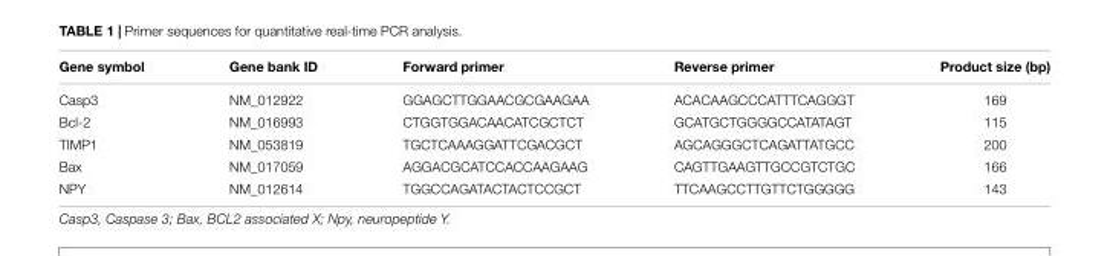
<table><thead><tr><td>Gene symbol</td><td>Gene bank ID</td><td>Forward primer</td><td>Reverse primer</td><td>Product size (bp)</td></tr></thead><tbody><tr><td>Casp3</td><td>NM_012922</td><td>GGAGCTTGGAACGCGAAGAA</td><td>ACACAAGCCCATTTCAGGGT</td><td>169</td></tr><tr><td>Bcl-2</td><td>NM_016993</td><td>CTGGTGGACAACATCGCTCT</td><td>GCATGCTGGGGCCATATAGT</td><td>115</td></tr><tr><td>TIMP1</td><td>NM_053819</td><td>TGCTCAAAGGATTCGACGCT</td><td>AGCAGGGCTCAGATTATGCC</td><td>200</td></tr><tr><td>Bax</td><td>NM_017059</td><td>AGGACGCATCCACCAAGAAG</td><td>CAGTTGAAGTTGCCGTCTGC</td><td>166</td></tr><tr><td>NPY</td><td>NM_012614</td><td>TGGCCAGATACTACTCCGCT</td><td>TTCAAGCCTTGTTCTGGGGG</td><td>143</td></tr></tbody></table>